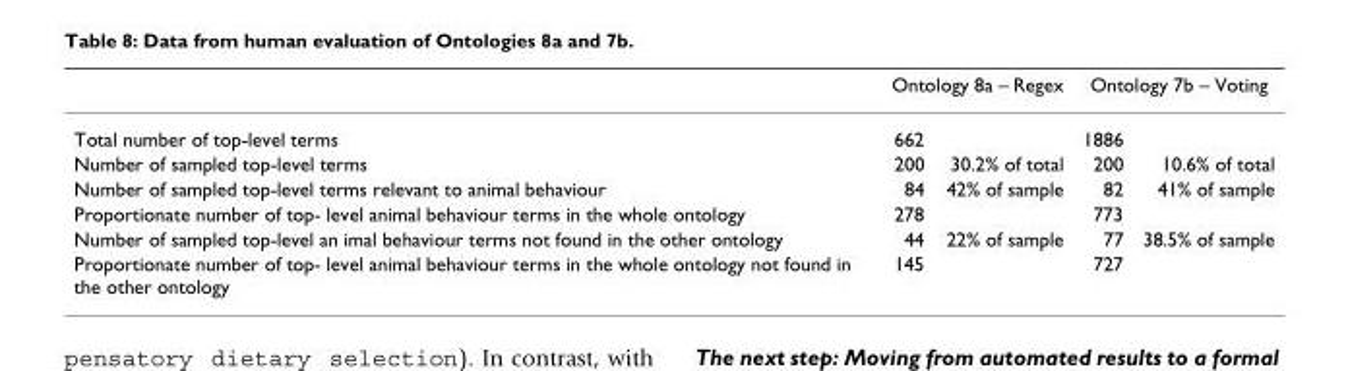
<table><thead><tr><td rowspan="2">Total number of top-level terms</td><td colspan="2">Ontology 8a – Regex</td><td colspan="2">Ontology 7b – Voting</td></tr><tr><td>662</td><td></td><td>1886</td><td></td></tr></thead><tbody><tr><td>Number of sampled top-level terms</td><td>200</td><td>30.2% of total</td><td>200</td><td>10.6% of total</td></tr><tr><td>Number of sampled top-level terms relevant to animal behaviour</td><td>84</td><td>42% of sample</td><td>82</td><td>41% of sample</td></tr><tr><td>Proportionate number of top- level animal behaviour terms in the whole ontology</td><td>278</td><td></td><td>773</td><td></td></tr><tr><td>Number of sampled top-level an imal behaviour terms not found in the other ontology</td><td>44</td><td>22% of sample</td><td>77</td><td>38.5% of sample</td></tr><tr><td>Proportionate number of top- level animal behaviour terms in the whole ontology not found in the other ontology</td><td>145</td><td></td><td>727</td><td></td></tr></tbody></table>